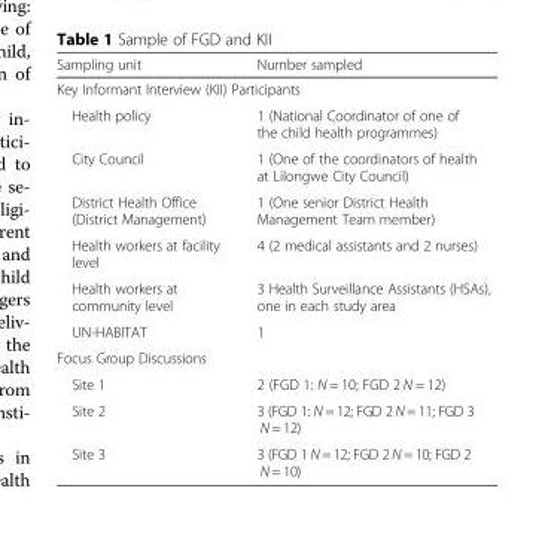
<table><thead><tr><td>Sampling unit</td><td>Number sampled</td></tr></thead><tbody><tr><td colspan="2">Key Informant Interview (KII) Participants</td></tr><tr><td>Health policy</td><td>1 (National Coordinator of one of the child health programmes)</td></tr><tr><td>City Council</td><td>1 (One of the coordinators of health at Lilongwe City Council)</td></tr><tr><td>District Health Office (District Management)</td><td>1 (One senior District Health Management Team member)</td></tr><tr><td>Health workers at facility level</td><td>4 (2 medical assistants and 2 nurses)</td></tr><tr><td>Health workers at community level</td><td>3 Health Surveillance Assistants (HSAs), one in each study area</td></tr><tr><td>UN-HABITAT</td><td>1</td></tr><tr><td colspan="2">Focus Group Discussions</td></tr><tr><td>Site 1</td><td>2 (FGD 1: N = 10; FGD 2 N = 12)</td></tr><tr><td>Site 2</td><td>3 (FGD 1: N = 12; FGD 2 N = 11; FGD 3 N = 12)</td></tr><tr><td>Site 3</td><td>3 (FGD 1 N = 12; FGD 2 N = 10; FGD 2 N = 10)</td></tr></tbody></table>